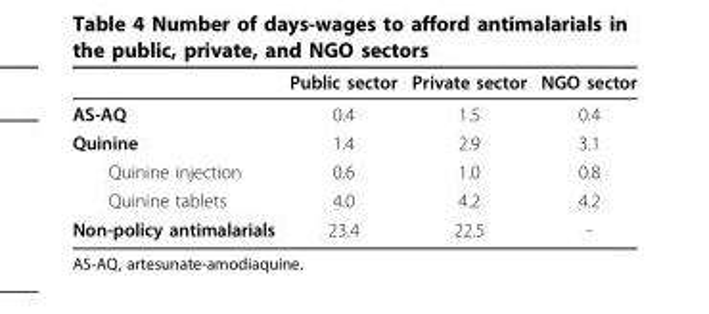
<table><thead><tr><td></td><td>Public sector</td><td>Private sector</td><td>NGO sector</td></tr></thead><tbody><tr><td>AS-AQ</td><td>0.4</td><td>1.5</td><td>0.4</td></tr><tr><td>Quinine</td><td>1.4</td><td>2.9</td><td>3.1</td></tr><tr><td>Quinine injection</td><td>0.6</td><td>1.0</td><td>0.8</td></tr><tr><td>Quinine tablets</td><td>4.0</td><td>4.2</td><td>4.2</td></tr><tr><td>Non-policy antimalarials</td><td>23.4</td><td>22.5</td><td>-</td></tr></tbody></table>